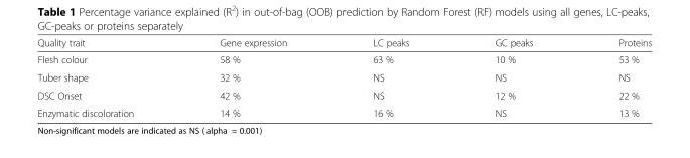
<table><thead><tr><td>Quality trait</td><td>Gene expression</td><td>LC peaks</td><td>GC peaks</td><td>Proteins</td></tr></thead><tbody><tr><td>Flesh colour</td><td>58 %</td><td>63 %</td><td>10 %</td><td>53 %</td></tr><tr><td>Tuber shape</td><td>32 %</td><td>NS</td><td>NS</td><td>NS</td></tr><tr><td>DSC Onset</td><td>42 %</td><td>NS</td><td>12 %</td><td>22 %</td></tr><tr><td>Enzymatic discoloration</td><td>14 %</td><td>16 %</td><td>NS</td><td>13 %</td></tr></tbody></table>